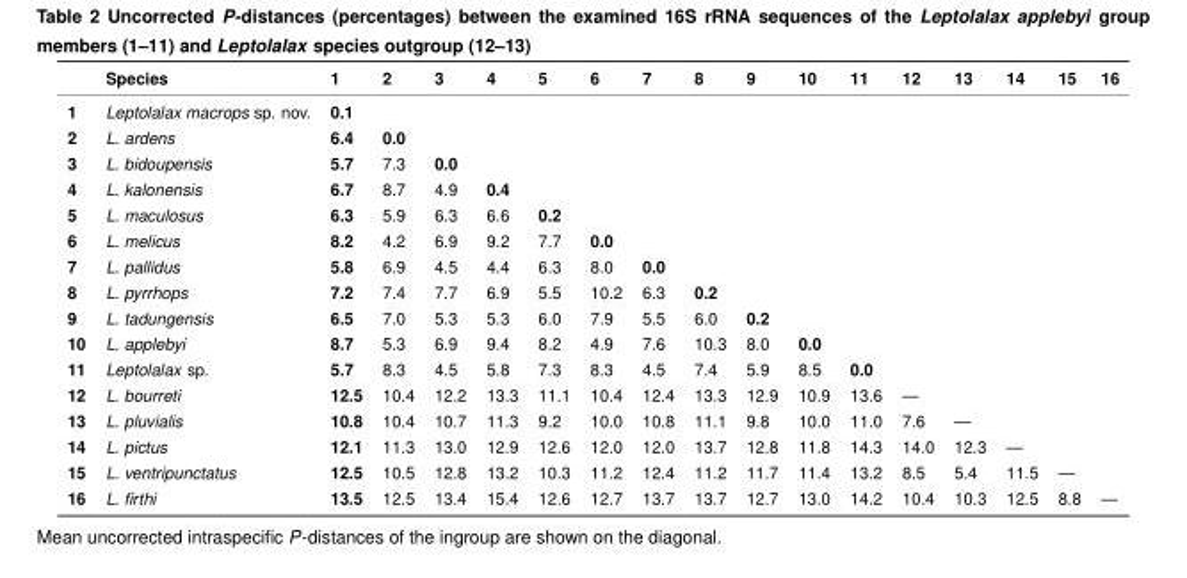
<table><thead><tr><td></td><td>Species</td><td>1</td><td>2</td><td>3</td><td>4</td><td>5</td><td>6</td><td>7</td><td>8</td><td>9</td><td>10</td><td>11</td><td>12</td><td>13</td><td>14</td><td>15</td><td>16</td></tr></thead><tbody><tr><td>1</td><td>Leptolalax macrops sp. nov.</td><td>0.1</td><td></td><td></td><td></td><td></td><td></td><td></td><td></td><td></td><td></td><td></td><td></td><td></td><td></td><td></td><td></td></tr><tr><td>2</td><td>L. ardens</td><td>6.4</td><td>0.0</td><td></td><td></td><td></td><td></td><td></td><td></td><td></td><td></td><td></td><td></td><td></td><td></td><td></td><td></td></tr><tr><td>3</td><td>L. bidoupensis</td><td>5.7</td><td>7.3</td><td>0.0</td><td></td><td></td><td></td><td></td><td></td><td></td><td></td><td></td><td></td><td></td><td></td><td></td><td></td></tr><tr><td>4</td><td>L. kalonensis</td><td>6.7</td><td>8.7</td><td>4.9</td><td>0.4</td><td></td><td></td><td></td><td></td><td></td><td></td><td></td><td></td><td></td><td></td><td></td><td></td></tr><tr><td>5</td><td>L. maculosus</td><td>6.3</td><td>5.9</td><td>6.3</td><td>6.6</td><td>0.2</td><td></td><td></td><td></td><td></td><td></td><td></td><td></td><td></td><td></td><td></td><td></td></tr><tr><td>6</td><td>L. melicus</td><td>8.2</td><td>4.2</td><td>6.9</td><td>9.2</td><td>7.7</td><td>0.0</td><td></td><td></td><td></td><td></td><td></td><td></td><td></td><td></td><td></td><td></td></tr><tr><td>7</td><td>L. pallidus</td><td>5.8</td><td>6.9</td><td>4.5</td><td>4.4</td><td>6.3</td><td>8.0</td><td>0.0</td><td></td><td></td><td></td><td></td><td></td><td></td><td></td><td></td><td></td></tr><tr><td>8</td><td>L. pyrrhops</td><td>7.2</td><td>7.4</td><td>7.7</td><td>6.9</td><td>5.5</td><td>10.2</td><td>6.3</td><td>0.2</td><td></td><td></td><td></td><td></td><td></td><td></td><td></td><td></td></tr><tr><td>9</td><td>L. tadungensis</td><td>6.5</td><td>7.0</td><td>5.3</td><td>5.3</td><td>6.0</td><td>7.9</td><td>5.5</td><td>6.0</td><td>0.2</td><td></td><td></td><td></td><td></td><td></td><td></td><td></td></tr><tr><td>10</td><td>L. applebyi</td><td>8.7</td><td>5.3</td><td>6.9</td><td>9.4</td><td>8.2</td><td>4.9</td><td>7.6</td><td>10.3</td><td>8.0</td><td>0.0</td><td></td><td></td><td></td><td></td><td></td><td></td></tr><tr><td>11</td><td>Leptolalax sp.</td><td>5.7</td><td>8.3</td><td>4.5</td><td>5.8</td><td>7.3</td><td>8.3</td><td>4.5</td><td>7.4</td><td>5.9</td><td>8.5</td><td>0.0</td><td></td><td></td><td></td><td></td><td></td></tr><tr><td>12</td><td>L. bourreti</td><td>12.5</td><td>10.4</td><td>12.2</td><td>13.3</td><td>11.1</td><td>10.4</td><td>12.4</td><td>13.3</td><td>12.9</td><td>10.9</td><td>13.6</td><td>—</td><td></td><td></td><td></td><td></td></tr><tr><td>13</td><td>L. pluvialis</td><td>10.8</td><td>10.4</td><td>10.7</td><td>11.3</td><td>9.2</td><td>10.0</td><td>10.8</td><td>11.1</td><td>9.8</td><td>10.0</td><td>11.0</td><td>7.6</td><td>—</td><td></td><td></td><td></td></tr><tr><td>14</td><td>L. pictus</td><td>12.1</td><td>11.3</td><td>13.0</td><td>12.9</td><td>12.6</td><td>12.0</td><td>12.0</td><td>13.7</td><td>12.8</td><td>11.8</td><td>14.3</td><td>14.0</td><td>12.3</td><td>—</td><td></td><td></td></tr><tr><td>15</td><td>L. ventripunctatus</td><td>12.5</td><td>10.5</td><td>12.8</td><td>13.2</td><td>10.3</td><td>11.2</td><td>12.4</td><td>11.2</td><td>11.7</td><td>11.4</td><td>13.2</td><td>8.5</td><td>5.4</td><td>11.5</td><td>—</td><td></td></tr><tr><td>16</td><td>L. firthi</td><td>13.5</td><td>12.5</td><td>13.4</td><td>15.4</td><td>12.6</td><td>12.7</td><td>13.7</td><td>13.7</td><td>12.7</td><td>13.0</td><td>14.2</td><td>10.4</td><td>10.3</td><td>12.5</td><td>8.8</td><td>—</td></tr></tbody></table>